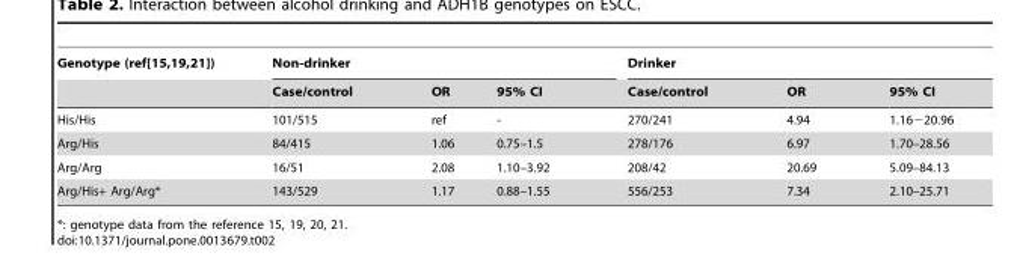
<table><thead><tr><td rowspan="2">Genotype (ref[15,19,21])</td><td colspan="3">Non-drinker</td><td colspan="3">Drinker</td></tr><tr><td>Case/control</td><td>OR</td><td>95% CI</td><td>Case/control</td><td>OR</td><td>95% CI</td></tr></thead><tbody><tr><td>His/His</td><td>101/515</td><td>ref</td><td>-</td><td>270/241</td><td>4.94</td><td>1.16−20.96</td></tr><tr><td>Arg/His</td><td>84/415</td><td>1.06</td><td>0.75–1.5</td><td>278/176</td><td>6.97</td><td>1.70–28.56</td></tr><tr><td>Arg/Arg</td><td>16/51</td><td>2.08</td><td>1.10–3.92</td><td>208/42</td><td>20.69</td><td>5.09–84.13</td></tr><tr><td>Arg/His+ Arg/Arg*</td><td>143/529</td><td>1.17</td><td>0.88–1.55</td><td>556/253</td><td>7.34</td><td>2.10–25.71</td></tr></tbody></table>